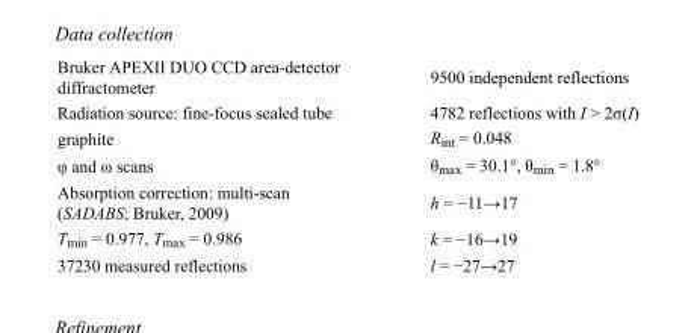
<table><tbody><tr><td>Bruker APEXII DUO CCD area-detector diffractometer</td><td>9500 independent reflections</td></tr><tr><td>Radiation source: fine-focus sealed tube</td><td>4782 reflections with I &gt; 2σ(I)</td></tr><tr><td>graphite</td><td>R<sub>int</sub> = 0.048</td></tr><tr><td>φ and ω scans</td><td>θ<sub>max</sub> = 30.1°, θ<sub>min</sub> = 1.8°</td></tr><tr><td>Absorption correction: multi-scan (SADABS; Bruker, 2009)</td><td>h = −11→17</td></tr><tr><td>T<sub>min</sub> = 0.977, T<sub>max</sub> = 0.986</td><td>k = −16→19</td></tr><tr><td>37230 measured reflections</td><td>l = −27→27</td></tr></tbody></table>